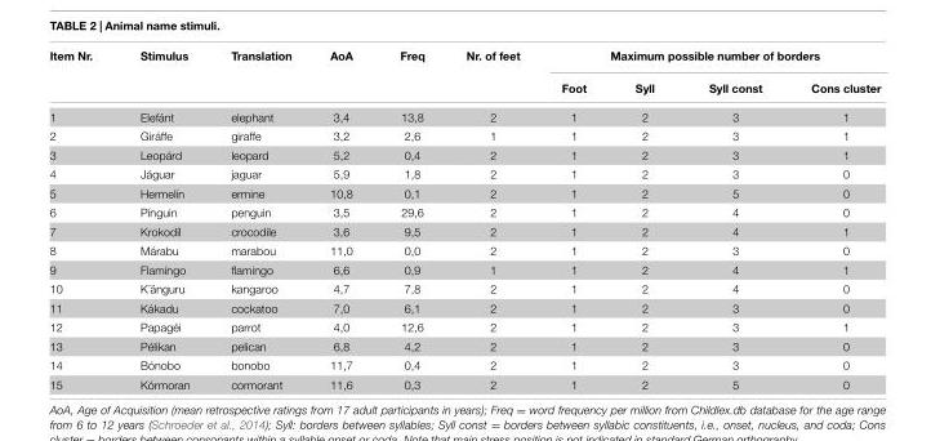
<table><thead><tr><td rowspan="2">Item Nr.</td><td rowspan="2">Stimulus</td><td rowspan="2">Translation</td><td rowspan="2">AoA</td><td rowspan="2">Freq</td><td rowspan="2">Nr. of feet</td><td colspan="4">Maximum possible number of borders</td></tr><tr><td>Foot</td><td>Syll</td><td>Syll const</td><td>Cons cluster</td></tr></thead><tbody><tr><td>1</td><td>Elefánt</td><td>elephant</td><td>3,4</td><td>13,8</td><td>2</td><td>1</td><td>2</td><td>3</td><td>1</td></tr><tr><td>2</td><td>Giráffe</td><td>giraffe</td><td>3,2</td><td>2,6</td><td>1</td><td>1</td><td>2</td><td>3</td><td>1</td></tr><tr><td>3</td><td>Leopárd</td><td>leopard</td><td>5,2</td><td>0,4</td><td>2</td><td>1</td><td>2</td><td>3</td><td>1</td></tr><tr><td>4</td><td>Jáguar</td><td>jaguar</td><td>5,9</td><td>1,8</td><td>2</td><td>1</td><td>2</td><td>3</td><td>0</td></tr><tr><td>5</td><td>Hermelín</td><td>ermine</td><td>10,8</td><td>0,1</td><td>2</td><td>1</td><td>2</td><td>5</td><td>0</td></tr><tr><td>6</td><td>Pínguin</td><td>penguin</td><td>3,5</td><td>29,6</td><td>2</td><td>1</td><td>2</td><td>4</td><td>0</td></tr><tr><td>7</td><td>Krokodíl</td><td>crocodile</td><td>3,6</td><td>9,5</td><td>2</td><td>1</td><td>2</td><td>4</td><td>1</td></tr><tr><td>8</td><td>Márabu</td><td>marabou</td><td>11,0</td><td>0,0</td><td>2</td><td>1</td><td>2</td><td>3</td><td>0</td></tr><tr><td>9</td><td>Flamíngo</td><td>flamingo</td><td>6,6</td><td>0,9</td><td>1</td><td>1</td><td>2</td><td>4</td><td>1</td></tr><tr><td>10</td><td>K´änguru</td><td>kangaroo</td><td>4,7</td><td>7,8</td><td>2</td><td>1</td><td>2</td><td>4</td><td>0</td></tr><tr><td>11</td><td>Kákadu</td><td>cockatoo</td><td>7,0</td><td>6,1</td><td>2</td><td>1</td><td>2</td><td>3</td><td>0</td></tr><tr><td>12</td><td>Papagéi</td><td>parrot</td><td>4,0</td><td>12,6</td><td>2</td><td>1</td><td>2</td><td>3</td><td>1</td></tr><tr><td>13</td><td>Pélikan</td><td>pelican</td><td>6,8</td><td>4,2</td><td>2</td><td>1</td><td>2</td><td>3</td><td>0</td></tr><tr><td>14</td><td>Bónobo</td><td>bonobo</td><td>11,7</td><td>0,4</td><td>2</td><td>1</td><td>2</td><td>3</td><td>0</td></tr><tr><td>15</td><td>Kórmoran</td><td>cormorant</td><td>11,6</td><td>0,3</td><td>2</td><td>1</td><td>2</td><td>5</td><td>0</td></tr></tbody></table>